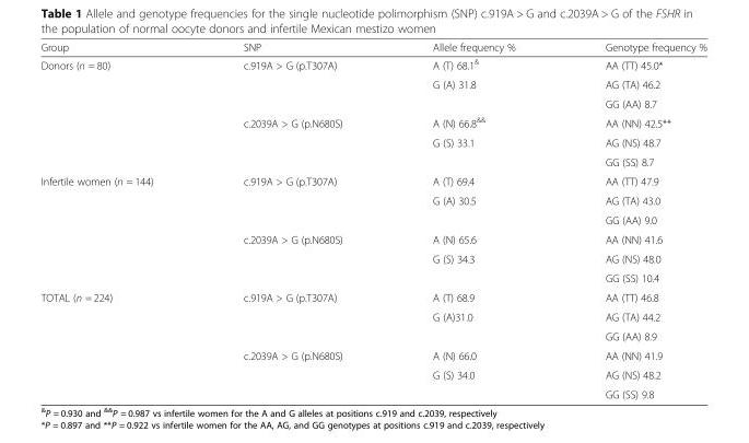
<table><thead><tr><td>Group</td><td>SNP</td><td>Allele frequency %</td><td>Genotype frequency %</td></tr></thead><tbody><tr><td rowspan="6">Donors (n = 80)</td><td>c.919A &gt; G (p.T307A)</td><td>A (T) 68.1<sup>&amp;</sup></td><td>AA (TT) 45.0*</td></tr><tr><td></td><td>G (A) 31.8</td><td>AG (TA) 46.2</td></tr><tr><td></td><td></td><td>GG (AA) 8.7</td></tr><tr><td>c.2039A &gt; G (p.N680S)</td><td>A (N) 66.8<sup>&amp;&amp;</sup></td><td>AA (NN) 42.5**</td></tr><tr><td></td><td>G (S) 33.1</td><td>AG (NS) 48.7</td></tr><tr><td></td><td></td><td>GG (SS) 8.7</td></tr><tr><td rowspan="6">Infertile women (n = 144)</td><td>c.919A &gt; G (p.T307A)</td><td>A (T) 69.4</td><td>AA (TT) 47.9</td></tr><tr><td></td><td>G (A) 30.5</td><td>AG (TA) 43.0</td></tr><tr><td></td><td></td><td>GG (AA) 9.0</td></tr><tr><td>c.2039A &gt; G (p.N680S)</td><td>A (N) 65.6</td><td>AA (NN) 41.6</td></tr><tr><td></td><td>G (S) 34.3</td><td>AG (NS) 48.0</td></tr><tr><td></td><td></td><td>GG (SS) 10.4</td></tr><tr><td rowspan="6">TOTAL (n = 224)</td><td>c.919A &gt; G (p.T307A)</td><td>A (T) 68.9</td><td>AA (TT) 46.8</td></tr><tr><td></td><td>G (A)31.0</td><td>AG (TA) 44.2</td></tr><tr><td></td><td></td><td>GG (AA) 8.9</td></tr><tr><td>c.2039A &gt; G (p.N680S)</td><td>A (N) 66.0</td><td>AA (NN) 41.9</td></tr><tr><td></td><td>G (S) 34.0</td><td>AG (NS) 48.2</td></tr><tr><td></td><td></td><td>GG (SS) 9.8</td></tr></tbody></table>